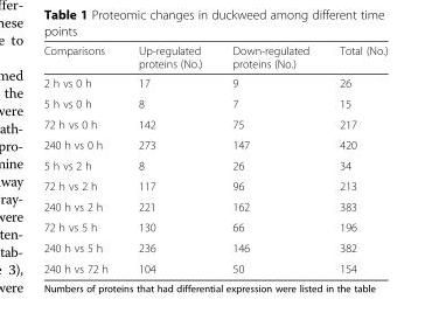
<table><thead><tr><td>Comparisons</td><td>Up-regulated proteins (No.)</td><td>Down-regulated proteins (No.)</td><td>Total (No.)</td></tr></thead><tbody><tr><td>2 h vs 0 h</td><td>17</td><td>9</td><td>26</td></tr><tr><td>5 h vs 0 h</td><td>8</td><td>7</td><td>15</td></tr><tr><td>72 h vs 0 h</td><td>142</td><td>75</td><td>217</td></tr><tr><td>240 h vs 0 h</td><td>273</td><td>147</td><td>420</td></tr><tr><td>5 h vs 2 h</td><td>8</td><td>26</td><td>34</td></tr><tr><td>72 h vs 2 h</td><td>117</td><td>96</td><td>213</td></tr><tr><td>240 h vs 2 h</td><td>221</td><td>162</td><td>383</td></tr><tr><td>72 h vs 5 h</td><td>130</td><td>66</td><td>196</td></tr><tr><td>240 h vs 5 h</td><td>236</td><td>146</td><td>382</td></tr><tr><td>240 h vs 72 h</td><td>104</td><td>50</td><td>154</td></tr></tbody></table>